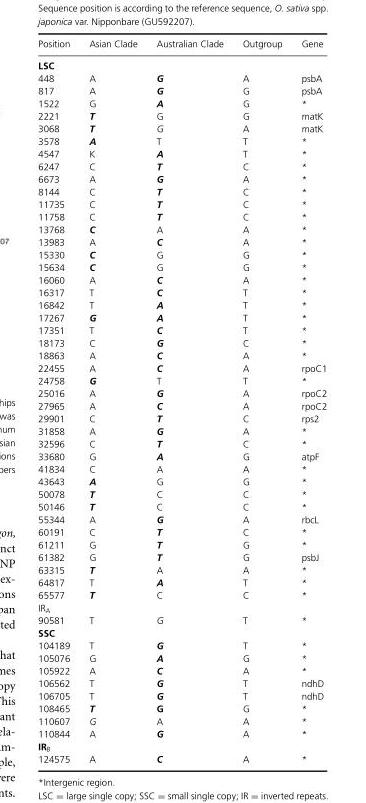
<table><thead><tr><td>Position</td><td>Asian Clade</td><td>Australian Clade</td><td>Outgroup</td><td>Gene</td></tr></thead><tbody><tr><td colspan="5">LSC</td></tr><tr><td>448</td><td>A</td><td>G</td><td>A</td><td>psbA</td></tr><tr><td>817</td><td>A</td><td>G</td><td>G</td><td>psbA</td></tr><tr><td>1522</td><td>G</td><td>A</td><td>G</td><td>*</td></tr><tr><td>2221</td><td>T</td><td>G</td><td>G</td><td>matK</td></tr><tr><td>3068</td><td>T</td><td>G</td><td>A</td><td>matK</td></tr><tr><td>3578</td><td>A</td><td>T</td><td>T</td><td>*</td></tr><tr><td>4547</td><td>K</td><td>A</td><td>T</td><td>*</td></tr><tr><td>6247</td><td>C</td><td>T</td><td>C</td><td>*</td></tr><tr><td>6673</td><td>A</td><td>G</td><td>A</td><td>*</td></tr><tr><td>8144</td><td>C</td><td>T</td><td>C</td><td>*</td></tr><tr><td>11735</td><td>C</td><td>T</td><td>C</td><td>*</td></tr><tr><td>11758</td><td>C</td><td>T</td><td>C</td><td>*</td></tr><tr><td>13768</td><td>C</td><td>A</td><td>A</td><td>*</td></tr><tr><td>13983</td><td>A</td><td>C</td><td>A</td><td>*</td></tr><tr><td>15330</td><td>C</td><td>G</td><td>G</td><td>*</td></tr><tr><td>15634</td><td>C</td><td>G</td><td>G</td><td>*</td></tr><tr><td>16060</td><td>A</td><td>C</td><td>A</td><td>*</td></tr><tr><td>16317</td><td>T</td><td>C</td><td>T</td><td>*</td></tr><tr><td>16842</td><td>T</td><td>A</td><td>T</td><td>*</td></tr><tr><td>17267</td><td>G</td><td>A</td><td>T</td><td>*</td></tr><tr><td>17351</td><td>T</td><td>C</td><td>T</td><td>*</td></tr><tr><td>18173</td><td>C</td><td>G</td><td>C</td><td>*</td></tr><tr><td>18863</td><td>A</td><td>C</td><td>A</td><td>*</td></tr><tr><td>22455</td><td>A</td><td>C</td><td>A</td><td>rpoC1</td></tr><tr><td>24758</td><td>G</td><td>T</td><td>T</td><td>*</td></tr><tr><td>25016</td><td>A</td><td>G</td><td>A</td><td>rpoC2</td></tr><tr><td>27965</td><td>A</td><td>C</td><td>A</td><td>rpoC2</td></tr><tr><td>29901</td><td>C</td><td>T</td><td>C</td><td>rps2</td></tr><tr><td>31858</td><td>A</td><td>G</td><td>A</td><td>*</td></tr><tr><td>32596</td><td>C</td><td>T</td><td>C</td><td>*</td></tr><tr><td>33680</td><td>G</td><td>A</td><td>G</td><td>atpF</td></tr><tr><td>41834</td><td>C</td><td>A</td><td>A</td><td>*</td></tr><tr><td>43643</td><td>A</td><td>G</td><td>G</td><td>*</td></tr><tr><td>50078</td><td>T</td><td>C</td><td>C</td><td>*</td></tr><tr><td>50146</td><td>T</td><td>C</td><td>C</td><td>*</td></tr><tr><td>55344</td><td>A</td><td>G</td><td>A</td><td>rbcL</td></tr><tr><td>60191</td><td>C</td><td>T</td><td>C</td><td>*</td></tr><tr><td>61211</td><td>G</td><td>T</td><td>G</td><td>*</td></tr><tr><td>61382</td><td>G</td><td>T</td><td>G</td><td>psbJ</td></tr><tr><td>63315</td><td>T</td><td>A</td><td>A</td><td>*</td></tr><tr><td>64817</td><td>T</td><td>A</td><td>T</td><td>*</td></tr><tr><td>65577</td><td>T</td><td>C</td><td>C</td><td>*</td></tr><tr><td colspan="5">IR<sub>A</sub></td></tr><tr><td>90581</td><td>T</td><td>G</td><td>T</td><td>*</td></tr><tr><td colspan="5">SSC</td></tr><tr><td>104189</td><td>T</td><td>G</td><td>T</td><td>*</td></tr><tr><td>105076</td><td>G</td><td>A</td><td>G</td><td>*</td></tr><tr><td>105922</td><td>A</td><td>C</td><td>A</td><td>*</td></tr><tr><td>106562</td><td>T</td><td>G</td><td>T</td><td>ndhD</td></tr><tr><td>106705</td><td>T</td><td>G</td><td>T</td><td>ndhD</td></tr><tr><td>108465</td><td>T</td><td>G</td><td>G</td><td>*</td></tr><tr><td>110607</td><td>G</td><td>A</td><td>A</td><td>*</td></tr><tr><td>110844</td><td>A</td><td>G</td><td>A</td><td>*</td></tr><tr><td colspan="5">IR<sub>B</sub></td></tr><tr><td>124575</td><td>A</td><td>C</td><td>A</td><td>*</td></tr></tbody></table>